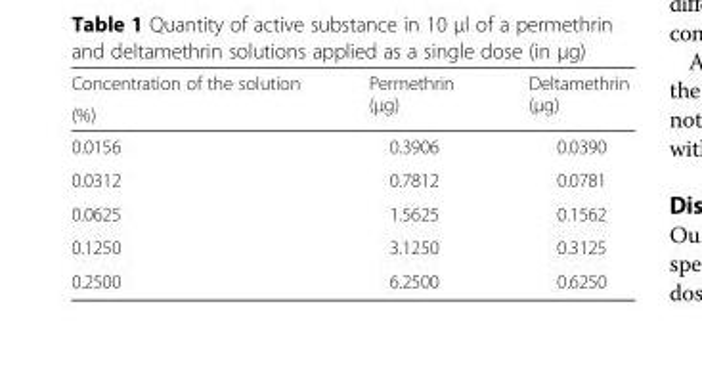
<table><thead><tr><td rowspan="2">Concentration of the solution (%)</td><td rowspan="2">Permethrin (μg)</td><td rowspan="2">Deltamethrin (μg)</td></tr><tr></tr></thead><tbody><tr><td>0.0156</td><td>0.3906</td><td>0.0390</td></tr><tr><td>0.0312</td><td>0.7812</td><td>0.0781</td></tr><tr><td>0.0625</td><td>1.5625</td><td>0.1562</td></tr><tr><td>0.1250</td><td>3.1250</td><td>0.3125</td></tr><tr><td>0.2500</td><td>6.2500</td><td>0.6250</td></tr></tbody></table>